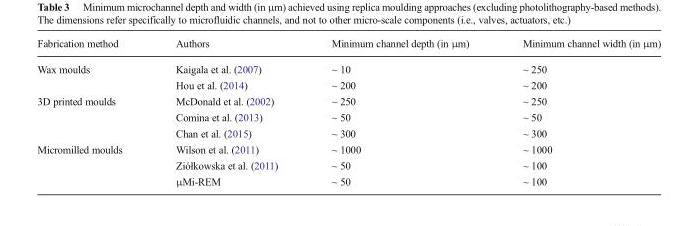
<table><thead><tr><td>Fabrication method</td><td>Authors</td><td>Minimum channel depth (in μm)</td><td>Minimum channel width (in μm)</td></tr></thead><tbody><tr><td rowspan="2">Wax moulds</td><td>Kaigala et al. (2007)</td><td>~ 10</td><td>~ 250</td></tr><tr><td>Hou et al. (2014)</td><td>~ 200</td><td>~ 200</td></tr><tr><td rowspan="3">3D printed moulds</td><td>McDonald et al. (2002)</td><td>~ 250</td><td>~ 250</td></tr><tr><td>Comina et al. (2013)</td><td>~ 50</td><td>~ 50</td></tr><tr><td>Chan et al. (2015)</td><td>~ 300</td><td>~ 300</td></tr><tr><td rowspan="3">Micromilled moulds</td><td>Wilson et al. (2011)</td><td>~ 1000</td><td>~ 1000</td></tr><tr><td>Ziółkowska et al. (2011)</td><td>~ 50</td><td>~ 100</td></tr><tr><td>μMi-REM</td><td>~ 50</td><td>~ 100</td></tr></tbody></table>